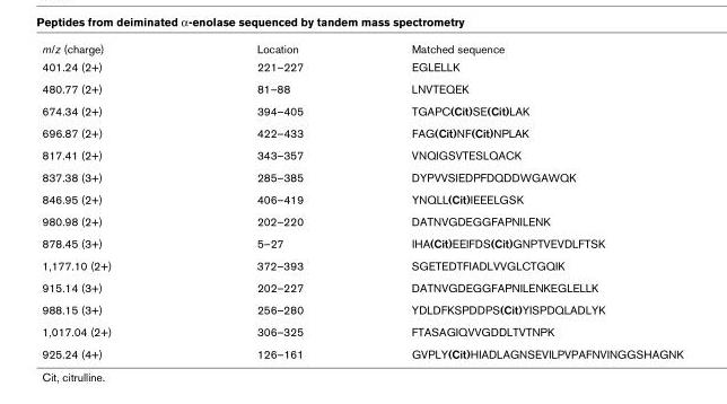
<table><tbody><tr><td>m/z (charge)</td><td>Location</td><td>Matched sequence</td></tr><tr><td>401.24 (2+)</td><td>221–227</td><td>EGLELLK</td></tr><tr><td>480.77 (2+)</td><td>81–88</td><td>LNVTEQEK</td></tr><tr><td>674.34 (2+)</td><td>394–405</td><td>TGAPC(Cit)SE(Cit)LAK</td></tr><tr><td>696.87 (2+)</td><td>422–433</td><td>FAG(Cit)NF(Cit)NPLAK</td></tr><tr><td>817.41 (2+)</td><td>343–357</td><td>VNQIGSVTESLQACK</td></tr><tr><td>837.38 (3+)</td><td>285–385</td><td>DYPVVSIEDPFDQDDWGAWQK</td></tr><tr><td>846.95 (2+)</td><td>406–419</td><td>YNQLL(Cit)IEEELGSK</td></tr><tr><td>980.98 (2+)</td><td>202–220</td><td>DATNVGDEGGFAPNILENK</td></tr><tr><td>878.45 (3+)</td><td>5–27</td><td>IHA(Cit)EEIFDS(Cit)GNPTVEVDLFTSK</td></tr><tr><td>1,177.10 (2+)</td><td>372–393</td><td>SGETEDTFIADLVVGLCTGQIK</td></tr><tr><td>915.14 (3+)</td><td>202–227</td><td>DATNVGDEGGFAPNILENKEGLELLK</td></tr><tr><td>988.15 (3+)</td><td>256–280</td><td>YDLDFKSPDDPS(Cit)YISPDQLADLYK</td></tr><tr><td>1,017.04 (2+)</td><td>306–325</td><td>FTASAGIQVVGDDLTVTNPK</td></tr><tr><td>925.24 (4+)</td><td>126–161</td><td>GVPLY(Cit)HIADLAGNSEVILPVPAFNVINGGSHAGNK</td></tr></tbody></table>